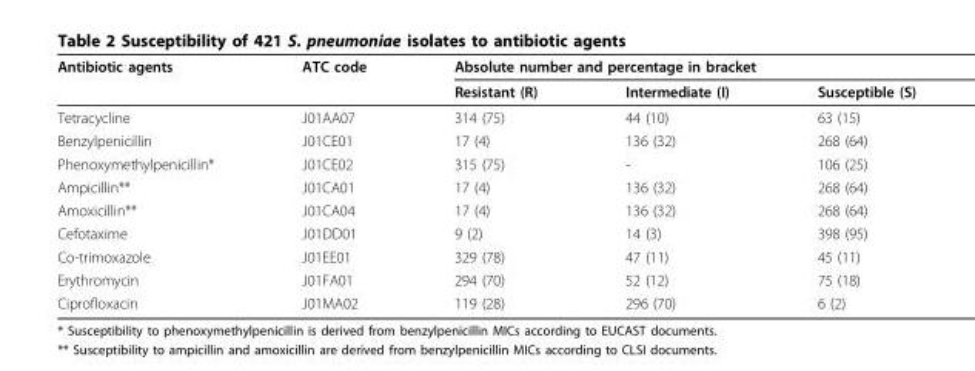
<table><thead><tr><td rowspan="2">Antibiotic agents</td><td rowspan="2">ATC code</td><td colspan="3">Absolute number and percentage in bracket</td></tr><tr><td>Resistant (R)</td><td>Intermediate (I)</td><td>Susceptible (S)</td></tr></thead><tbody><tr><td>Tetracycline</td><td>J01AA07</td><td>314 (75)</td><td>44 (10)</td><td>63 (15)</td></tr><tr><td>Benzylpenicillin</td><td>J01CE01</td><td>17 (4)</td><td>136 (32)</td><td>268 (64)</td></tr><tr><td>Phenoxymethylpenicillin*</td><td>J01CE02</td><td>315 (75)</td><td>-</td><td>106 (25)</td></tr><tr><td>Ampicillin**</td><td>J01CA01</td><td>17 (4)</td><td>136 (32)</td><td>268 (64)</td></tr><tr><td>Amoxicillin**</td><td>J01CA04</td><td>17 (4)</td><td>136 (32)</td><td>268 (64)</td></tr><tr><td>Cefotaxime</td><td>J01DD01</td><td>9 (2)</td><td>14 (3)</td><td>398 (95)</td></tr><tr><td>Co-trimoxazole</td><td>J01EE01</td><td>329 (78)</td><td>47 (11)</td><td>45 (11)</td></tr><tr><td>Erythromycin</td><td>J01FA01</td><td>294 (70)</td><td>52 (12)</td><td>75 (18)</td></tr><tr><td>Ciprofloxacin</td><td>J01MA02</td><td>119 (28)</td><td>296 (70)</td><td>6 (2)</td></tr></tbody></table>